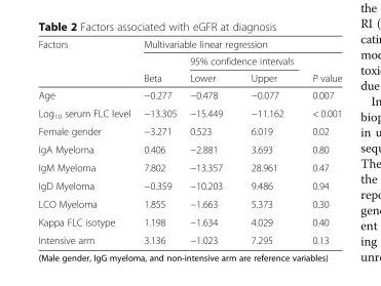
<table><thead><tr><td rowspan="3">Factors</td><td colspan="4">Multivariable linear regression</td></tr><tr><td rowspan="2">Beta</td><td colspan="2">95% confidence intervals</td><td rowspan="2">P value</td></tr><tr><td>Lower</td><td>Upper</td></tr></thead><tbody><tr><td>Age</td><td>−0.277</td><td>−0.478</td><td>−0.077</td><td>0.007</td></tr><tr><td>Log<sub>10</sub> serum FLC level</td><td>−13.305</td><td>−15.449</td><td>−11.162</td><td>&lt; 0.001</td></tr><tr><td>Female gender</td><td>−3.271</td><td>0.523</td><td>6.019</td><td>0.02</td></tr><tr><td>IgA Myeloma</td><td>0.406</td><td>−2.881</td><td>3.693</td><td>0.80</td></tr><tr><td>IgM Myeloma</td><td>7.802</td><td>−13.357</td><td>28.961</td><td>0.47</td></tr><tr><td>IgD Myeloma</td><td>−0.359</td><td>−10.203</td><td>9.486</td><td>0.94</td></tr><tr><td>LCO Myeloma</td><td>1.855</td><td>−1.663</td><td>5.373</td><td>0.30</td></tr><tr><td>Kappa FLC isotype</td><td>1.198</td><td>−1.634</td><td>4.029</td><td>0.40</td></tr><tr><td>Intensive arm</td><td>3.136</td><td>−1.023</td><td>7.295</td><td>0.13</td></tr></tbody></table>